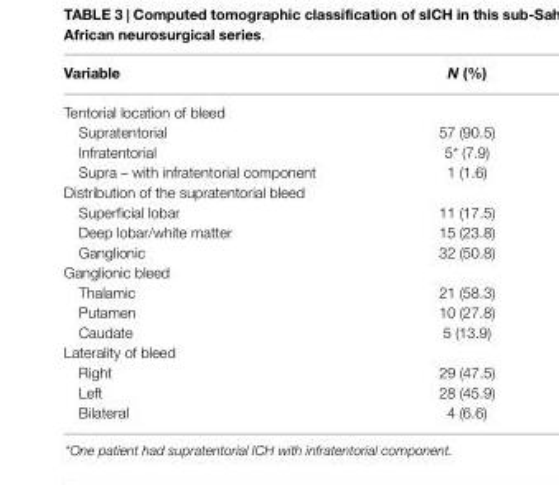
<table><thead><tr><td>Variable</td><td>N (%)</td></tr></thead><tbody><tr><td colspan="2">Tentorial location of bleed</td></tr><tr><td>Supratentorial</td><td>57 (90.5)</td></tr><tr><td>Infratentorial</td><td>5* (7.9)</td></tr><tr><td>Supra – with infratentorial component</td><td>1 (1.6)</td></tr><tr><td colspan="2">Distribution of the supratentorial bleed</td></tr><tr><td>Superficial lobar</td><td>11 (17.5)</td></tr><tr><td>Deep lobar/white matter</td><td>15 (23.8)</td></tr><tr><td>Ganglionic</td><td>32 (50.8)</td></tr><tr><td colspan="2">Ganglionic bleed</td></tr><tr><td>Thalamic</td><td>21 (58.3)</td></tr><tr><td>Putamen</td><td>10 (27.8)</td></tr><tr><td>Caudate</td><td>5 (13.9)</td></tr><tr><td colspan="2">Laterality of bleed</td></tr><tr><td>Right</td><td>29 (47.5)</td></tr><tr><td>Left</td><td>28 (45.9)</td></tr><tr><td>Bilateral</td><td>4 (6.6)</td></tr></tbody></table>